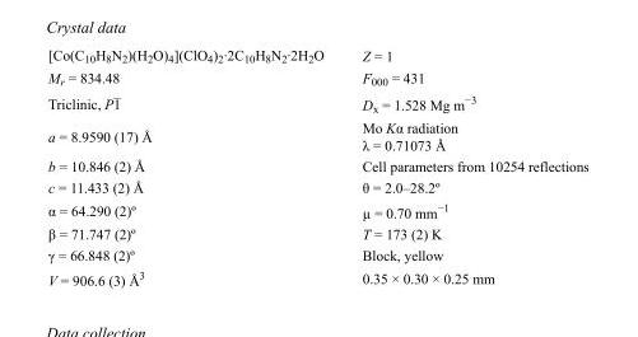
<table><tbody><tr><td>[Co(C<sub>10</sub>H<sub>8</sub>N<sub>2</sub>)(H<sub>2</sub>O)<sub>4</sub>](ClO<sub>4</sub>)<sub>2</sub>·2C<sub>10</sub>H<sub>8</sub>N<sub>2</sub>·2H<sub>2</sub>O</td><td>Z = 1</td></tr><tr><td>M<sub>r</sub> = 834.48</td><td>F000 = 431</td></tr><tr><td>Triclinic, P1</td><td>D<sub>x</sub> = 1.528 Mg m<sup>−3</sup></td></tr><tr><td>a = 8.9590 (17) Å</td><td>Mo Kα radiation λ = 0.71073 Å</td></tr><tr><td>b = 10.846 (2) Å</td><td>Cell parameters from 10254 reflections</td></tr><tr><td>c = 11.433 (2) Å</td><td>θ = 2.0–28.2º</td></tr><tr><td>α = 64.290 (2)º</td><td>µ = 0.70 mm<sup>−1</sup></td></tr><tr><td>β = 71.747 (2)º</td><td>T = 173 (2) K</td></tr><tr><td>γ = 66.848 (2)º</td><td>Block, yellow</td></tr><tr><td>V = 906.6 (3) Å<sup>3</sup></td><td>0.35 × 0.30 × 0.25 mm</td></tr></tbody></table>